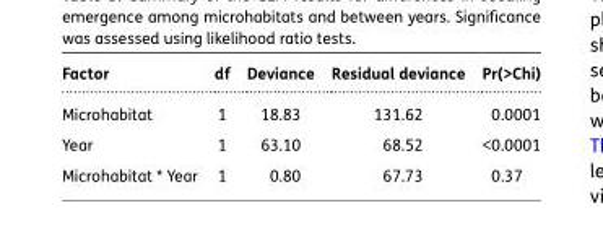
<table><thead><tr><td>Factor</td><td>df</td><td>Deviance</td><td>Residual deviance</td><td>Pr(&gt;Chi)</td></tr></thead><tbody><tr><td>Microhabitat</td><td>1</td><td>18.83</td><td>131.62</td><td>0.0001</td></tr><tr><td>Year</td><td>1</td><td>63.10</td><td>68.52</td><td>&lt;0.0001</td></tr><tr><td>Microhabitat * Year</td><td>1</td><td>0.80</td><td>67.73</td><td>0.37</td></tr></tbody></table>